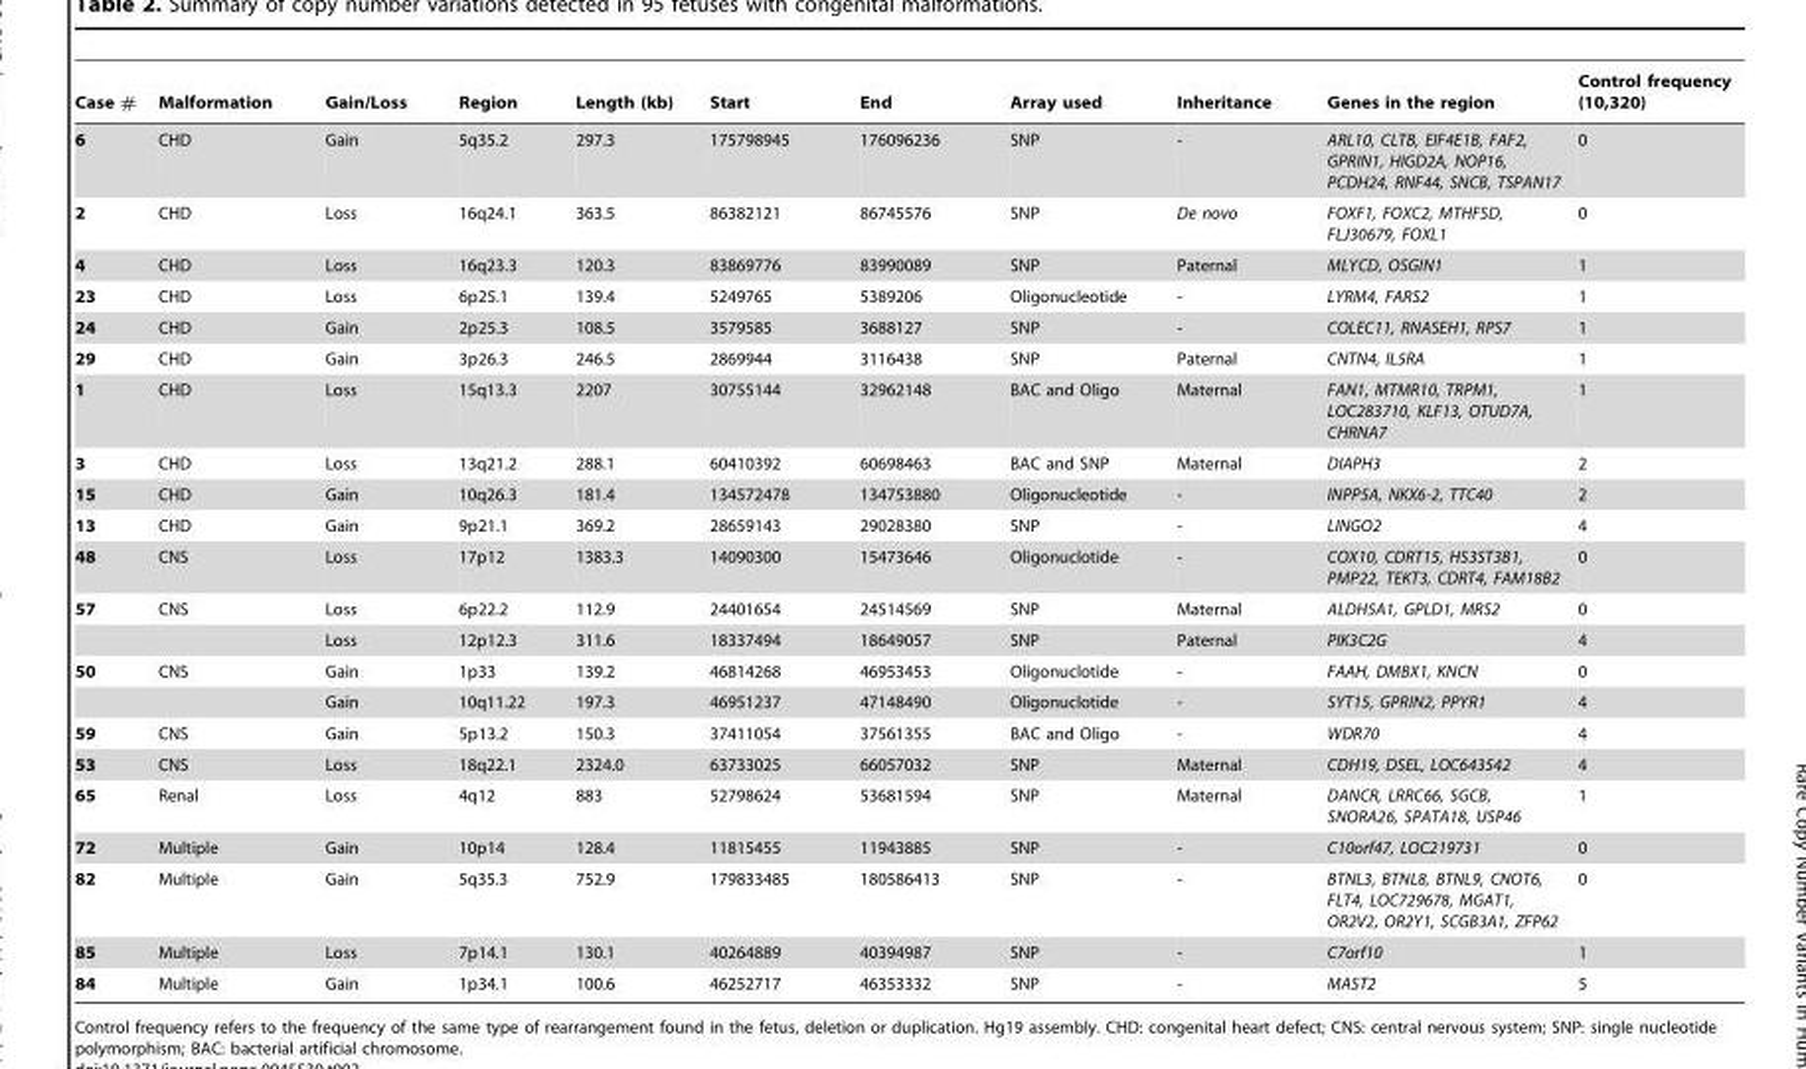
<table><thead><tr><td>Case #</td><td>Malformation</td><td>Gain/Loss</td><td>Region</td><td>Length (kb)</td><td>Start</td><td>End</td><td>Array used</td><td>Inheritance</td><td>Genes in the region</td><td>Control frequency (10,320)</td></tr></thead><tbody><tr><td>6</td><td>CHD</td><td>Gain</td><td>5q35.2</td><td>297.3</td><td>175798945</td><td>176096236</td><td>SNP</td><td>-</td><td>ARL10, CLTB, EIF4E1B, FAF2, GPRIN1, HIGD2A, NOP16, PCDH24, RNF44, SNCB, TSPAN17</td><td>0</td></tr><tr><td>2</td><td>CHD</td><td>Loss</td><td>16q24.1</td><td>363.5</td><td>86382121</td><td>86745576</td><td>SNP</td><td>De novo</td><td>FOXF1, FOXC2, MTHFSD, FLJ30679, FOXL1</td><td>0</td></tr><tr><td>4</td><td>CHD</td><td>Loss</td><td>16q23.3</td><td>120.3</td><td>83869776</td><td>83990089</td><td>SNP</td><td>Paternal</td><td>MLYCD, OSGIN1</td><td>1</td></tr><tr><td>23</td><td>CHD</td><td>Loss</td><td>6p25.1</td><td>139.4</td><td>5249765</td><td>5389206</td><td>Oligonucleotide</td><td>-</td><td>LYRM4, FARS2</td><td>1</td></tr><tr><td>24</td><td>CHD</td><td>Gain</td><td>2p25.3</td><td>108.5</td><td>3579585</td><td>3688127</td><td>SNP</td><td>-</td><td>COLEC11, RNASEH1, RPS7</td><td>1</td></tr><tr><td>29</td><td>CHD</td><td>Gain</td><td>3p26.3</td><td>246.5</td><td>2869944</td><td>3116438</td><td>SNP</td><td>Paternal</td><td>CNTN4, IL5RA</td><td>1</td></tr><tr><td>1</td><td>CHD</td><td>Loss</td><td>15q13.3</td><td>2207</td><td>30755144</td><td>32962148</td><td>BAC and Oligo</td><td>Maternal</td><td>FAN1, MTMR10, TRPM1, LOC283710, KLF13, OTUD7A, CHRNA7</td><td>1</td></tr><tr><td>3</td><td>CHD</td><td>Loss</td><td>13q21.2</td><td>288.1</td><td>60410392</td><td>60698463</td><td>BAC and SNP</td><td>Maternal</td><td>DIAPH3</td><td>2</td></tr><tr><td>15</td><td>CHD</td><td>Gain</td><td>10q26.3</td><td>181.4</td><td>134572478</td><td>134753880</td><td>Oligonucleotide</td><td>-</td><td>INPP5A, NKX6-2, TTC40</td><td>2</td></tr><tr><td>13</td><td>CHD</td><td>Gain</td><td>9p21.1</td><td>369.2</td><td>28659143</td><td>29028380</td><td>SNP</td><td>-</td><td>LINGO2</td><td>4</td></tr><tr><td>48</td><td>CNS</td><td>Loss</td><td>17p12</td><td>1383.3</td><td>14090300</td><td>15473646</td><td>Oligonuclotide</td><td>-</td><td>COX10, CDRT15, HS3ST3B1, PMP22, TEKT3, CDRT4, FAM18B2</td><td>0</td></tr><tr><td rowspan="2">57</td><td>CNS</td><td>Loss</td><td>6p22.2</td><td>112.9</td><td>24401654</td><td>24514569</td><td>SNP</td><td>Maternal</td><td>ALDH5A1, GPLD1, MRS2</td><td>0</td></tr><tr><td></td><td>Loss</td><td>12p12.3</td><td>311.6</td><td>18337494</td><td>18649057</td><td>SNP</td><td>Paternal</td><td>PIK3C2G</td><td>4</td></tr><tr><td rowspan="2">50</td><td>CNS</td><td>Gain</td><td>1p33</td><td>139.2</td><td>46814268</td><td>46953453</td><td>Oligonuclotide</td><td>-</td><td>FAAH, DMBX1, KNCN</td><td>0</td></tr><tr><td></td><td>Gain</td><td>10q11.22</td><td>197.3</td><td>46951237</td><td>47148490</td><td>Oligonuclotide</td><td>-</td><td>SYT15, GPRIN2, PPYR1</td><td>4</td></tr><tr><td>59</td><td>CNS</td><td>Gain</td><td>5p13.2</td><td>150.3</td><td>37411054</td><td>37561355</td><td>BAC and Oligo</td><td>-</td><td>WDR70</td><td>4</td></tr><tr><td>53</td><td>CNS</td><td>Loss</td><td>18q22.1</td><td>2324.0</td><td>63733025</td><td>66057032</td><td>SNP</td><td>Maternal</td><td>CDH19, DSEL, LOC643542</td><td>4</td></tr><tr><td>65</td><td>Renal</td><td>Loss</td><td>4q12</td><td>883</td><td>52798624</td><td>53681594</td><td>SNP</td><td>Maternal</td><td>DANCR, LRRC66, SGCB, SNORA26, SPATA18, USP46</td><td>1</td></tr><tr><td>72</td><td>Multiple</td><td>Gain</td><td>10p14</td><td>128.4</td><td>11815455</td><td>11943885</td><td>SNP</td><td>-</td><td>C10orf47, LOC219731</td><td>0</td></tr><tr><td>82</td><td>Multiple</td><td>Gain</td><td>5q35.3</td><td>752.9</td><td>179833485</td><td>180586413</td><td>SNP</td><td>-</td><td>BTNL3, BTNL8, BTNL9, CNOT6, FLT4, LOC729678, MGAT1, OR2V2, OR2Y1, SCGB3A1, ZFP62</td><td>0</td></tr><tr><td>85</td><td>Multiple</td><td>Loss</td><td>7p14.1</td><td>130.1</td><td>40264889</td><td>40394987</td><td>SNP</td><td>-</td><td>C7orf10</td><td>1</td></tr><tr><td>84</td><td>Multiple</td><td>Gain</td><td>1p34.1</td><td>100.6</td><td>46252717</td><td>46353332</td><td>SNP</td><td>-</td><td>MAST2</td><td>5</td></tr></tbody></table>